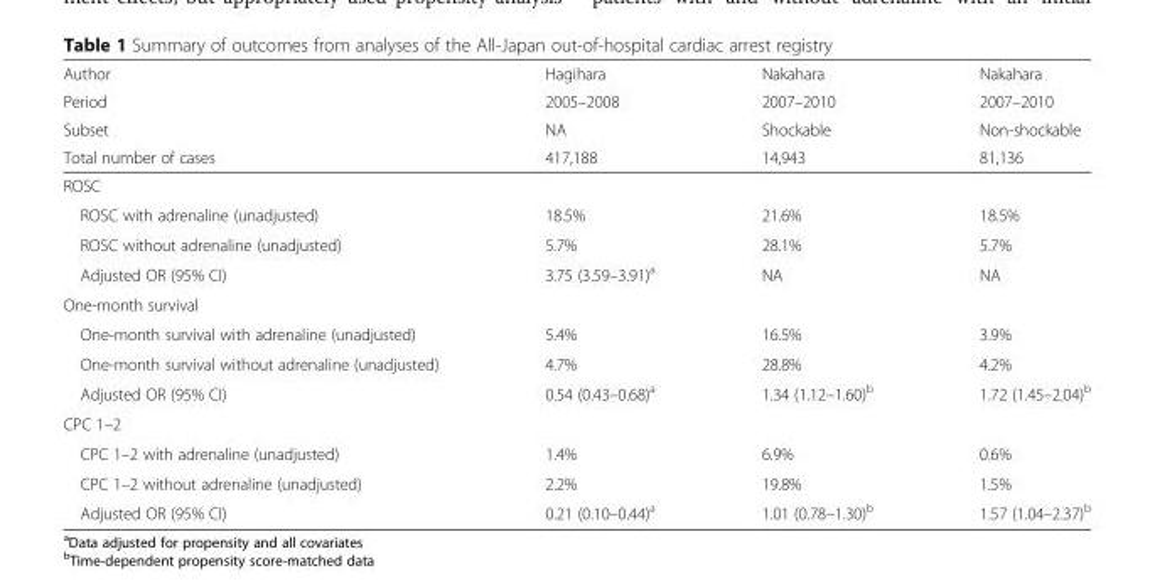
<table><thead><tr><td rowspan="4">Author Period Subset Total number of cases</td><td rowspan="4">Hagihara 2005–2008 NA 417,188</td><td rowspan="4">Nakahara 2007–2010 Shockable 14,943</td><td rowspan="4">Nakahara 2007–2010 Non-shockable 81,136</td></tr><tr></tr><tr></tr><tr></tr></thead><tbody><tr><td colspan="4">ROSC</td></tr><tr><td>ROSC with adrenaline (unadjusted)</td><td>18.5%</td><td>21.6%</td><td>18.5%</td></tr><tr><td>ROSC without adrenaline (unadjusted)</td><td>5.7%</td><td>28.1%</td><td>5.7%</td></tr><tr><td>Adjusted OR (95% CI)</td><td>3.75 (3.59–3.91)<sup>a</sup></td><td>NA</td><td>NA</td></tr><tr><td colspan="4">One-month survival</td></tr><tr><td>One-month survival with adrenaline (unadjusted)</td><td>5.4%</td><td>16.5%</td><td>3.9%</td></tr><tr><td>One-month survival without adrenaline (unadjusted)</td><td>4.7%</td><td>28.8%</td><td>4.2%</td></tr><tr><td>Adjusted OR (95% CI)</td><td>0.54 (0.43–0.68)<sup>a</sup></td><td>1.34 (1.12–1.60)<sup>b</sup></td><td>1.72 (1.45–2.04)<sup>b</sup></td></tr><tr><td colspan="4">CPC 1–2</td></tr><tr><td>CPC 1–2 with adrenaline (unadjusted)</td><td>1.4%</td><td>6.9%</td><td>0.6%</td></tr><tr><td>CPC 1–2 without adrenaline (unadjusted)</td><td>2.2%</td><td>19.8%</td><td>1.5%</td></tr><tr><td>Adjusted OR (95% CI)</td><td>0.21 (0.10–0.44)<sup>a</sup></td><td>1.01 (0.78–1.30)<sup>b</sup></td><td>1.57 (1.04–2.37)<sup>b</sup></td></tr></tbody></table>